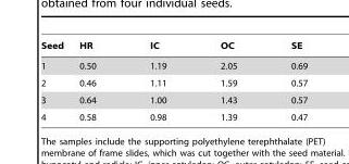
<table><thead><tr><td>Seed</td><td>HR</td><td>IC</td><td>OC</td><td>SE</td></tr></thead><tbody><tr><td>1</td><td>0.50</td><td>1.19</td><td>2.05</td><td>0.69</td></tr><tr><td>2</td><td>0.46</td><td>1.11</td><td>1.59</td><td>0.57</td></tr><tr><td>3</td><td>0.64</td><td>1.00</td><td>1.43</td><td>0.57</td></tr><tr><td>4</td><td>0.58</td><td>0.98</td><td>1.39</td><td>0.47</td></tr></tbody></table>